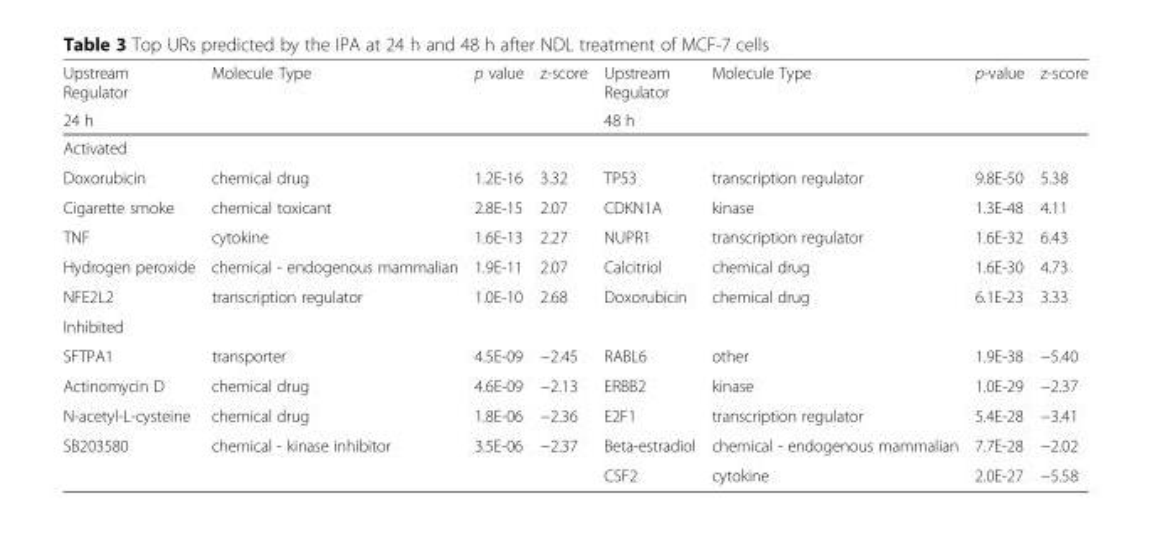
<table><thead><tr><td>Upstream Regulator</td><td>Molecule Type</td><td>p value</td><td>z-score</td><td>Upstream Regulator</td><td>Molecule Type</td><td>p-value</td><td>z-score</td></tr><tr><td colspan="4">24 h</td><td colspan="4">48 h</td></tr></thead><tbody><tr><td colspan="8">Activated</td></tr><tr><td>Doxorubicin</td><td>chemical drug</td><td>1.2E-16</td><td>3.32</td><td>TP53</td><td>transcription regulator</td><td>9.8E-50</td><td>5.38</td></tr><tr><td>Cigarette smoke</td><td>chemical toxicant</td><td>2.8E-15</td><td>2.07</td><td>CDKN1A</td><td>kinase</td><td>1.3E-48</td><td>4.11</td></tr><tr><td>TNF</td><td>cytokine</td><td>1.6E-13</td><td>2.27</td><td>NUPR1</td><td>transcription regulator</td><td>1.6E-32</td><td>6.43</td></tr><tr><td>Hydrogen peroxide</td><td>chemical - endogenous mammalian</td><td>1.9E-11</td><td>2.07</td><td>Calcitriol</td><td>chemical drug</td><td>1.6E-30</td><td>4.73</td></tr><tr><td>NFE2L2</td><td>transcription regulator</td><td>1.0E-10</td><td>2.68</td><td>Doxorubicin</td><td>chemical drug</td><td>6.1E-23</td><td>3.33</td></tr><tr><td colspan="8">Inhibited</td></tr><tr><td>SFTPA1</td><td>transporter</td><td>4.5E-09</td><td>−2.45</td><td>RABL6</td><td>other</td><td>1.9E-38</td><td>−5.40</td></tr><tr><td>Actinomycin D</td><td>chemical drug</td><td>4.6E-09</td><td>−2.13</td><td>ERBB2</td><td>kinase</td><td>1.0E-29</td><td>−2.37</td></tr><tr><td>N-acetyl-L-cysteine</td><td>chemical drug</td><td>1.8E-06</td><td>−2.36</td><td>E2F1</td><td>transcription regulator</td><td>5.4E-28</td><td>−3.41</td></tr><tr><td rowspan="2">SB203580</td><td>chemical - kinase inhibitor</td><td>3.5E-06</td><td>−2.37</td><td>Beta-estradiol</td><td>chemical - endogenous mammalian</td><td>7.7E-28</td><td>−2.02</td></tr><tr><td></td><td></td><td></td><td>CSF2</td><td>cytokine</td><td>2.0E-27</td><td>−5.58</td></tr></tbody></table>